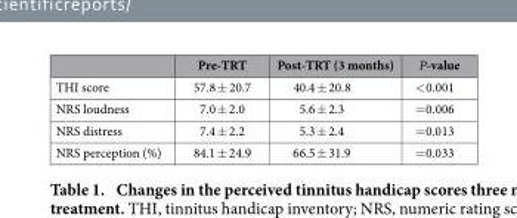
<table><thead><tr><td></td><td>Pre-TRT</td><td>Post-TRT (3 months)</td><td>P-value</td></tr></thead><tbody><tr><td>THI score</td><td>57.8 ± 20.7</td><td>40.4 ± 20.8</td><td>&lt; 0.001</td></tr><tr><td>NRS loudness</td><td>7.0 ± 2.0</td><td>5.6 ± 2.3</td><td>= 0.006</td></tr><tr><td>NRS distress</td><td>7.4 ± 2.2</td><td>5.3 ± 2.4</td><td>= 0.013</td></tr><tr><td>NRS perception (%)</td><td>84.1 ± 24.9</td><td>66.5 ± 31.9</td><td>= 0.033</td></tr></tbody></table>